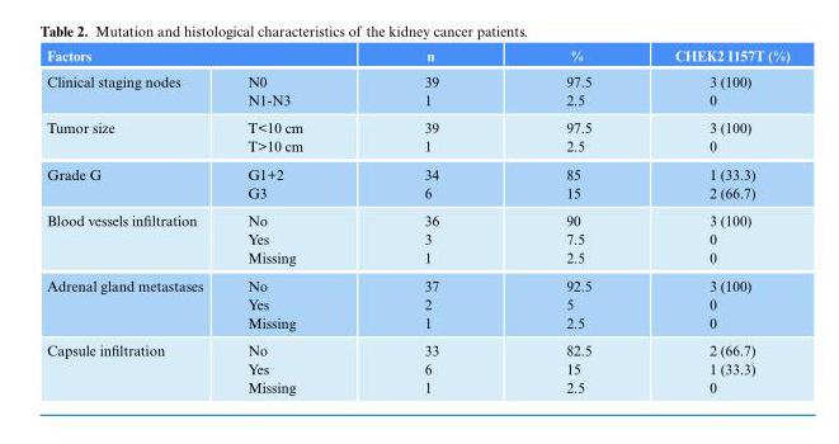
<table><thead><tr><td colspan="2">Factors</td><td rowspan="2">n 39 1</td><td rowspan="2">% 97.5 2.5</td><td rowspan="2">CHEK2 I157T (%) 3 (100) 0</td></tr><tr><td>Clinical staging nodes</td><td>N0 N1-N3</td></tr></thead><tbody><tr><td>Tumor size</td><td>T&lt;10 cm T&gt;10 cm</td><td>39 1</td><td>97.5 2.5</td><td>3 (100) 0</td></tr><tr><td>Grade G</td><td>G1+2 G3</td><td>34 6</td><td>85 15</td><td>1 (33.3) 2 (66.7)</td></tr><tr><td>Blood vessels infiltration</td><td>No Yes Missing</td><td>36 3 1</td><td>90 7.5 2.5</td><td>3 (100) 0 0</td></tr><tr><td>Adrenal gland metastases</td><td>No Yes Missing</td><td>37 2 1</td><td>92.5 5 2.5</td><td>3 (100) 0 0</td></tr><tr><td>Capsule infiltration</td><td>No Yes Missing</td><td>33 6 1</td><td>82.5 15 2.5</td><td>2 (66.7) 1 (33.3) 0</td></tr></tbody></table>